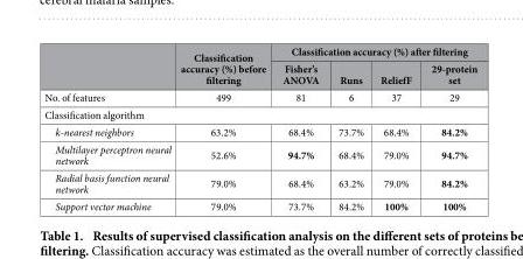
<table><thead><tr><td rowspan="2"></td><td rowspan="2">Classification accuracy (%) before filtering</td><td colspan="4">Classification accuracy (%) after filtering</td></tr><tr><td>Fisher’s ANOVA</td><td>Runs</td><td>ReliefF</td><td>29-protein set</td></tr></thead><tbody><tr><td>No. of features</td><td>499</td><td>81</td><td>6</td><td>37</td><td>29</td></tr><tr><td colspan="6">Classification algorithm</td></tr><tr><td>k-nearest neighbors</td><td>63.2%</td><td>68.4%</td><td>73.7%</td><td>68.4%</td><td>84.2%</td></tr><tr><td>Multilayer perceptron neural network</td><td>52.6%</td><td>94.7%</td><td>68.4%</td><td>79.0%</td><td>94.7%</td></tr><tr><td>Radial basis function neural network</td><td>79.0%</td><td>68.4%</td><td>63.2%</td><td>79.0%</td><td>84.2%</td></tr><tr><td>Support vector machine</td><td>79.0%</td><td>73.7%</td><td>84.2%</td><td>100%</td><td>100%</td></tr></tbody></table>